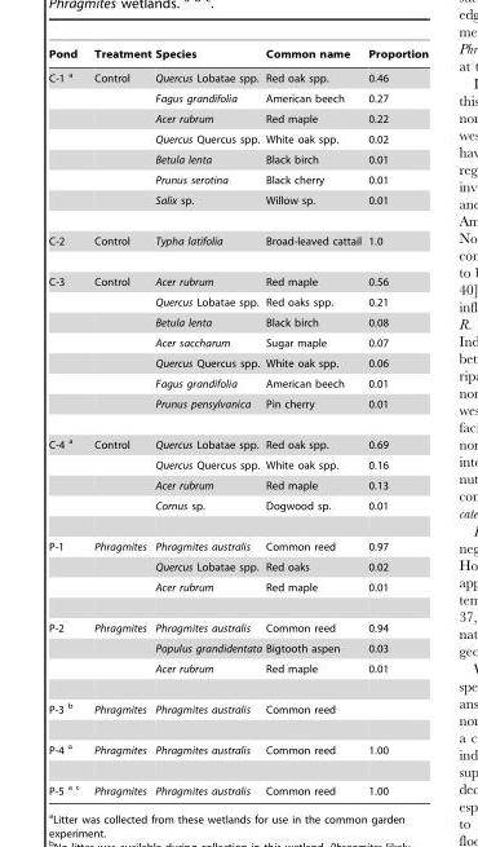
<table><thead><tr><td>Pond</td><td>Treatment</td><td>Species</td><td>Common name</td><td>Proportion</td></tr></thead><tbody><tr><td rowspan="7">C-1 a</td><td>Control</td><td>Quercus Lobatae spp.</td><td>Red oak spp.</td><td>0.46</td></tr><tr><td></td><td>Fagus grandifolia</td><td>American beech</td><td>0.27</td></tr><tr><td></td><td>Acer rubrum</td><td>Red maple</td><td>0.22</td></tr><tr><td></td><td>Quercus Quercus spp.</td><td>White oak spp.</td><td>0.02</td></tr><tr><td></td><td>Betula lenta</td><td>Black birch</td><td>0.01</td></tr><tr><td></td><td>Prunus serotina</td><td>Black cherry</td><td>0.01</td></tr><tr><td></td><td>Salix sp.</td><td>Willow sp.</td><td>0.01</td></tr><tr><td>C-2</td><td>Control</td><td>Typha latifolia</td><td>Broad-leaved cattail</td><td>1.0</td></tr><tr><td rowspan="7">C-3</td><td>Control</td><td>Acer rubrum</td><td>Red maple</td><td>0.56</td></tr><tr><td></td><td>Quercus Lobatae spp.</td><td>Red oaks spp.</td><td>0.21</td></tr><tr><td></td><td>Betula lenta</td><td>Black birch</td><td>0.08</td></tr><tr><td></td><td>Acer saccharum</td><td>Sugar maple</td><td>0.07</td></tr><tr><td></td><td>Quercus Quercus spp.</td><td>White oak spp.</td><td>0.06</td></tr><tr><td></td><td>Fagus grandifolia</td><td>American beech</td><td>0.01</td></tr><tr><td></td><td>Prunus pensylvanica</td><td>Pin cherry</td><td>0.01</td></tr><tr><td rowspan="4">C-4 a</td><td>Control</td><td>Quercus Lobatae spp.</td><td>Red oak spp.</td><td>0.69</td></tr><tr><td></td><td>Quercus Quercus spp.</td><td>White oak spp.</td><td>0.16</td></tr><tr><td></td><td>Acer rubrum</td><td>Red maple</td><td>0.13</td></tr><tr><td></td><td>Cornus sp.</td><td>Dogwood sp.</td><td>0.01</td></tr><tr><td rowspan="3">P-1</td><td>Phragmites</td><td>Phragmites australis</td><td>Common reed</td><td>0.97</td></tr><tr><td></td><td>Quercus Lobatae spp.</td><td>Red oaks</td><td>0.02</td></tr><tr><td></td><td>Acer rubrum</td><td>Red maple</td><td>0.01</td></tr><tr><td rowspan="3">P-2</td><td>Phragmites</td><td>Phragmites australis</td><td>Common reed</td><td>0.94</td></tr><tr><td></td><td>Populus grandidentata</td><td>Bigtooth aspen</td><td>0.03</td></tr><tr><td></td><td>Acer rubrum</td><td>Red maple</td><td>0.01</td></tr><tr><td>P-3 b</td><td>Phragmites</td><td>Phragmites australis</td><td>Common reed</td><td></td></tr><tr><td>P-4 a</td><td>Phragmites</td><td>Phragmites australis</td><td>Common reed</td><td>1.00</td></tr><tr><td>P-5 a c</td><td>Phragmites</td><td>Phragmites australis</td><td>Common reed</td><td>1.00</td></tr></tbody></table>